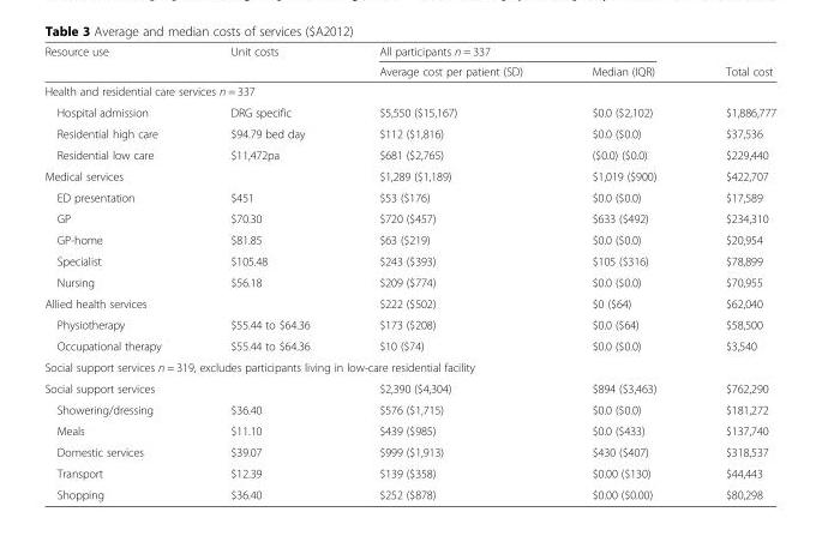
<table><thead><tr><td rowspan="2">Resource use</td><td rowspan="2">Unit costs</td><td colspan="2">All participants n = 337</td><td rowspan="2">Total cost</td></tr><tr><td>Average cost per patient (SD)</td><td>Median (IQR)</td></tr></thead><tbody><tr><td colspan="5">Health and residential care services n = 337</td></tr><tr><td>Hospital admission</td><td>DRG specific</td><td>$5,550 ($15,167)</td><td>$0.0 ($2,102)</td><td>$1,886,777</td></tr><tr><td>Residential high care</td><td>$94.79 bed day</td><td>$112 ($1,816)</td><td>$0.0 ($0.0)</td><td>$37,536</td></tr><tr><td>Residential low care</td><td>$11,472pa</td><td>$681 ($2,765)</td><td>($0.0) ($0.0)</td><td>$229,440</td></tr><tr><td>Medical services</td><td></td><td>$1,289 ($1,189)</td><td>$1,019 ($900)</td><td>$422,707</td></tr><tr><td>ED presentation</td><td>$451</td><td>$53 ($176)</td><td>$0.0 ($0.0)</td><td>$17,589</td></tr><tr><td>GP</td><td>$70.30</td><td>$720 ($457)</td><td>$633 ($492)</td><td>$234,310</td></tr><tr><td>GP-home</td><td>$81.85</td><td>$63 ($219)</td><td>$0.0 ($0.0)</td><td>$20,954</td></tr><tr><td>Specialist</td><td>$105.48</td><td>$243 ($393)</td><td>$105 ($316)</td><td>$78,899</td></tr><tr><td>Nursing</td><td>$56.18</td><td>$209 ($774)</td><td>$0.0 ($0.0)</td><td>$70,955</td></tr><tr><td>Allied health services</td><td></td><td>$222 ($502)</td><td>$0 ($64)</td><td>$62,040</td></tr><tr><td>Physiotherapy</td><td>$55.44 to $64.36</td><td>$173 ($208)</td><td>$0.0 ($64)</td><td>$58,500</td></tr><tr><td>Occupational therapy</td><td>$55.44 to $64.36</td><td>$10 ($74)</td><td>$0.0 ($0.0)</td><td>$3,540</td></tr><tr><td colspan="5">Social support services n = 319, excludes participants living in low-care residential facility</td></tr><tr><td colspan="2">Social support services</td><td>$2,390 ($4,304)</td><td>$894 ($3,463)</td><td>$762,290</td></tr><tr><td>Showering/dressing</td><td>$36.40</td><td>$576 ($1,715)</td><td>$0.0 ($0.0)</td><td>$181,272</td></tr><tr><td>Meals</td><td>$11.10</td><td>$439 ($985)</td><td>$0.0 ($433)</td><td>$137,740</td></tr><tr><td>Domestic services</td><td>$39.07</td><td>$999 ($1,913)</td><td>$430 ($407)</td><td>$318,537</td></tr><tr><td>Transport</td><td>$12.39</td><td>$139 ($358)</td><td>$0.00 ($130)</td><td>$44,443</td></tr><tr><td>Shopping</td><td>$36.40</td><td>$252 ($878)</td><td>$0.00 ($0.00)</td><td>$80,298</td></tr></tbody></table>